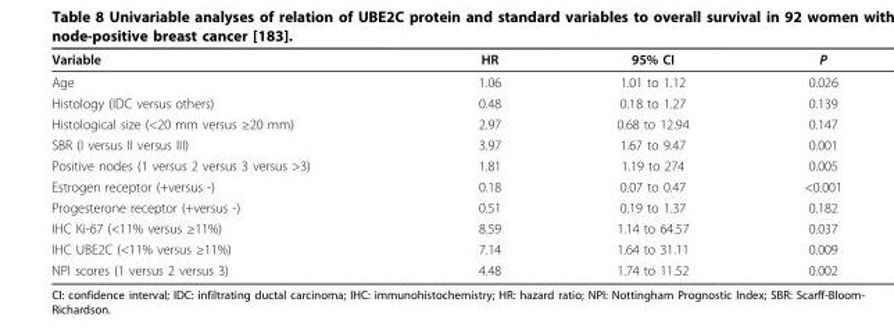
<table><thead><tr><td>Variable</td><td>HR</td><td>95% CI</td><td>P</td></tr></thead><tbody><tr><td>Age</td><td>1.06</td><td>1.01 to 1.12</td><td>0.026</td></tr><tr><td>Histology (IDC versus others)</td><td>0.48</td><td>0.18 to 1.27</td><td>0.139</td></tr><tr><td>Histological size (&lt;20 mm versus ≥20 mm)</td><td>2.97</td><td>0.68 to 12.94</td><td>0.147</td></tr><tr><td>SBR (I versus II versus III)</td><td>3.97</td><td>1.67 to 9.47</td><td>0.001</td></tr><tr><td>Positive nodes (1 versus 2 versus 3 versus &gt;3)</td><td>1.81</td><td>1.19 to 274</td><td>0.005</td></tr><tr><td>Estrogen receptor (+versus -)</td><td>0.18</td><td>0.07 to 0.47</td><td>&lt;0.001</td></tr><tr><td>Progesterone receptor (+versus -)</td><td>0.51</td><td>0.19 to 1.37</td><td>0.182</td></tr><tr><td>IHC Ki-67 (&lt;11% versus ≥11%)</td><td>8.59</td><td>1.14 to 64.57</td><td>0.037</td></tr><tr><td>IHC UBE2C (&lt;11% versus ≥11%)</td><td>7.14</td><td>1.64 to 31.11</td><td>0.009</td></tr><tr><td>NPI scores (1 versus 2 versus 3)</td><td>4.48</td><td>1.74 to 11.52</td><td>0.002</td></tr></tbody></table>